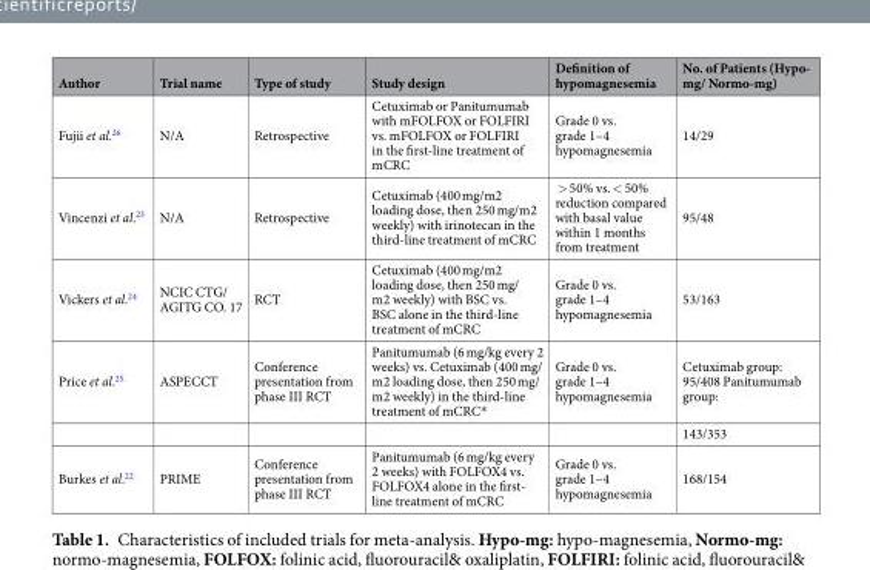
<table><thead><tr><td>Author</td><td>Trial name</td><td>Type of study</td><td>Study design</td><td>Definition of hypomagnesemia</td><td>No. of Patients (Hypo- mg/ Normo-mg)</td></tr></thead><tbody><tr><td>Fujii et al.<sup>26</sup></td><td>N/A</td><td>Retrospective</td><td>Cetuximab or Panitumumab with mFOLFOX or FOLFIRI vs. mFOLFOX or FOLFIRI in the first-line treatment of mCRC</td><td>Grade 0 vs. grade 1–4 hypomagnesemia</td><td>14/29</td></tr><tr><td>Vincenzi et al.<sup>23</sup></td><td>N/A</td><td>Retrospective</td><td>Cetuximab (400 mg/m2 loading dose, then 250 mg/m2 weekly) with irinotecan in the third-line treatment of mCRC</td><td>&gt; 50% vs. &lt; 50% reduction compared with basal value within 1 months from treatment</td><td>95/48</td></tr><tr><td>Vickers et al.<sup>24</sup></td><td>NCIC CTG/ AGITG CO. 17</td><td>RCT</td><td>Cetuximab (400 mg/m2 loading dose, then 250 mg/ m2 weekly) with BSC vs. BSC alone in the third-line treatment of mCRC</td><td>Grade 0 vs. grade 1–4 hypomagnesemia</td><td>53/163</td></tr><tr><td rowspan="2">Price et al.<sup>25</sup></td><td>ASPECCT</td><td>Conference presentation from phase III RCT</td><td>Panitumumab (6 mg/kg every 2 weeks) vs. Cetuximab (400 mg/ m2 loading dose, then 250 mg/ m2 weekly) in the third-line treatment of mCRC*</td><td>Grade 0 vs. grade 1–4 hypomagnesemia</td><td>Cetuximab group: 95/408 Panitumumab group:</td></tr><tr><td></td><td></td><td></td><td></td><td>143/353</td></tr><tr><td>Burkes et al.<sup>22</sup></td><td>PRIME</td><td>Conference presentation from phase III RCT</td><td>Panitumumab (6 mg/kg every 2 weeks) with FOLFOX4 vs. FOLFOX4 alone in the first- line treatment of mCRC</td><td>Grade 0 vs. grade 1–4 hypomagnesemia</td><td>168/154</td></tr></tbody></table>